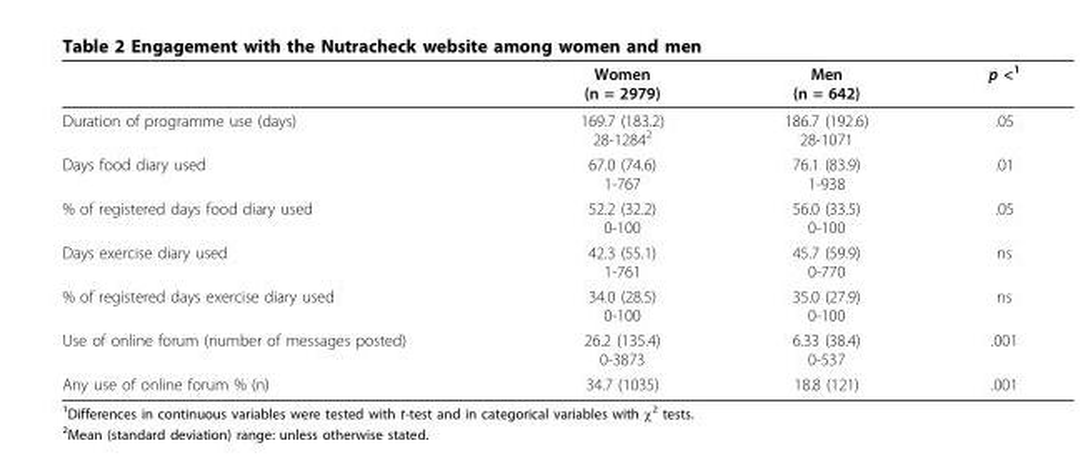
<table><thead><tr><td></td><td>Women (n = 2979)</td><td>Men (n = 642)</td><td>p &lt;<sup>1</sup></td></tr></thead><tbody><tr><td>Duration of programme use (days)</td><td>169.7 (183.2) 28-1284<sup>2</sup></td><td>186.7 (192.6) 28-1071</td><td>.05</td></tr><tr><td>Days food diary used</td><td>67.0 (74.6) 1-767</td><td>76.1 (83.9) 1-938</td><td>.01</td></tr><tr><td>% of registered days food diary used</td><td>52.2 (32.2) 0-100</td><td>56.0 (33.5) 0-100</td><td>.05</td></tr><tr><td>Days exercise diary used</td><td>42.3 (55.1) 1-761</td><td>45.7 (59.9) 0-770</td><td>ns</td></tr><tr><td>% of registered days exercise diary used</td><td>34.0 (28.5) 0-100</td><td>35.0 (27.9) 0-100</td><td>ns</td></tr><tr><td>Use of online forum (number of messages posted)</td><td>26.2 (135.4) 0-3873</td><td>6.33 (38.4) 0-537</td><td>.001</td></tr><tr><td>Any use of online forum % (n)</td><td>34.7 (1035)</td><td>18.8 (121)</td><td>.001</td></tr></tbody></table>